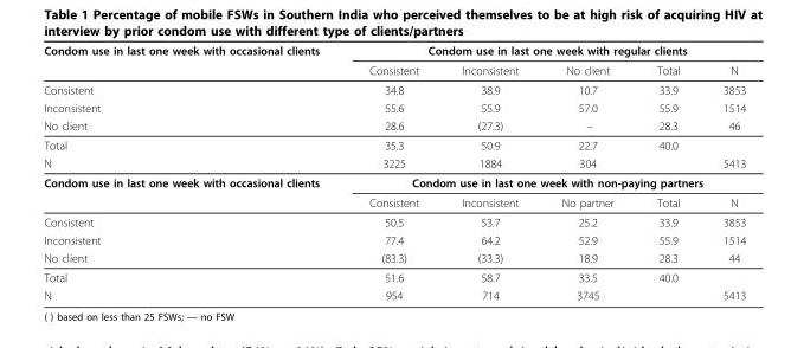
<table><thead><tr><td rowspan="2">Condom use in last one week with occasional clients</td><td colspan="5">Condom use in last one week with regular clients</td></tr><tr><td>Consistent</td><td>Inconsistent</td><td>No client</td><td>Total</td><td>N</td></tr></thead><tbody><tr><td>Consistent</td><td>34.8</td><td>38.9</td><td>10.7</td><td>33.9</td><td>3853</td></tr><tr><td>Inconsistent</td><td>55.6</td><td>55.9</td><td>57.0</td><td>55.9</td><td>1514</td></tr><tr><td>No client</td><td>28.6</td><td>(27.3)</td><td>–</td><td>28.3</td><td>46</td></tr><tr><td>Total</td><td>35.3</td><td>50.9</td><td>22.7</td><td>40.0</td><td></td></tr><tr><td>N</td><td>3225</td><td>1884</td><td>304</td><td></td><td>5413</td></tr><tr><td rowspan="2">Condom use in last one week with occasional clients</td><td colspan="5">Condom use in last one week with non-paying partners</td></tr><tr><td>Consistent</td><td>Inconsistent</td><td>No partner</td><td>Total</td><td>N</td></tr><tr><td>Consistent</td><td>50.5</td><td>53.7</td><td>25.2</td><td>33.9</td><td>3853</td></tr><tr><td>Inconsistent</td><td>77.4</td><td>64.2</td><td>52.9</td><td>55.9</td><td>1514</td></tr><tr><td>No client</td><td>(83.3)</td><td>(33.3)</td><td>18.9</td><td>28.3</td><td>44</td></tr><tr><td>Total</td><td>51.6</td><td>58.7</td><td>33.5</td><td>40.0</td><td></td></tr><tr><td>N</td><td>954</td><td>714</td><td>3745</td><td></td><td>5413</td></tr></tbody></table>